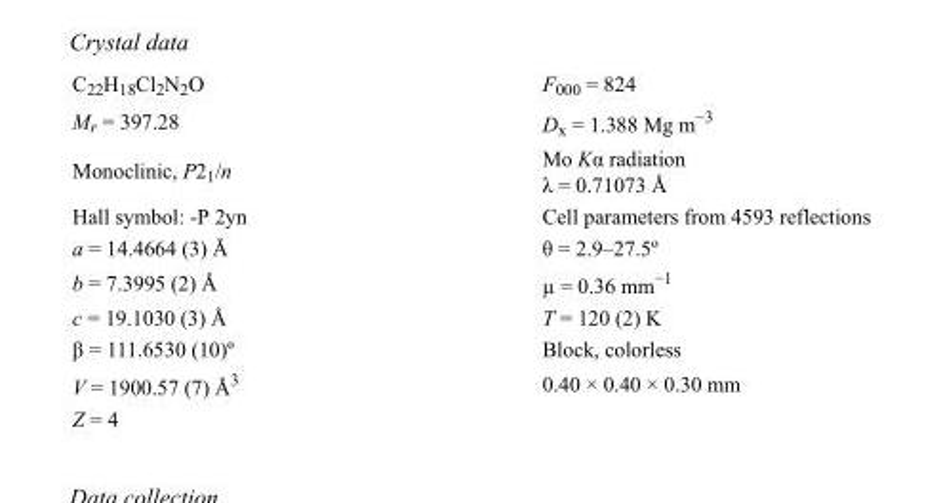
<table><tbody><tr><td>C<sub>22</sub>H<sub>18</sub>Cl<sub>2</sub>N<sub>2</sub>O</td><td>F<sub>000</sub> = 824</td></tr><tr><td>M<sub>r</sub> = 397.28</td><td>D<sub>x</sub> = 1.388 Mg m<sup>−3</sup></td></tr><tr><td>Monoclinic, P2<sub>1</sub>/n</td><td>Mo Kα radiation λ = 0.71073 Å</td></tr><tr><td>Hall symbol: -P 2yn</td><td>Cell parameters from 4593 reflections</td></tr><tr><td>a = 14.4664 (3) Å</td><td>θ = 2.9–27.5º</td></tr><tr><td>b = 7.3995 (2) Å</td><td>µ = 0.36 mm<sup>−1</sup></td></tr><tr><td>c = 19.1030 (3) Å</td><td>T = 120 (2) K</td></tr><tr><td>β = 111.6530 (10)º</td><td>Block, colorless</td></tr><tr><td>V = 1900.57 (7) Å<sup>3</sup></td><td>0.40 × 0.40 × 0.30 mm</td></tr><tr><td>Z = 4</td><td></td></tr></tbody></table>